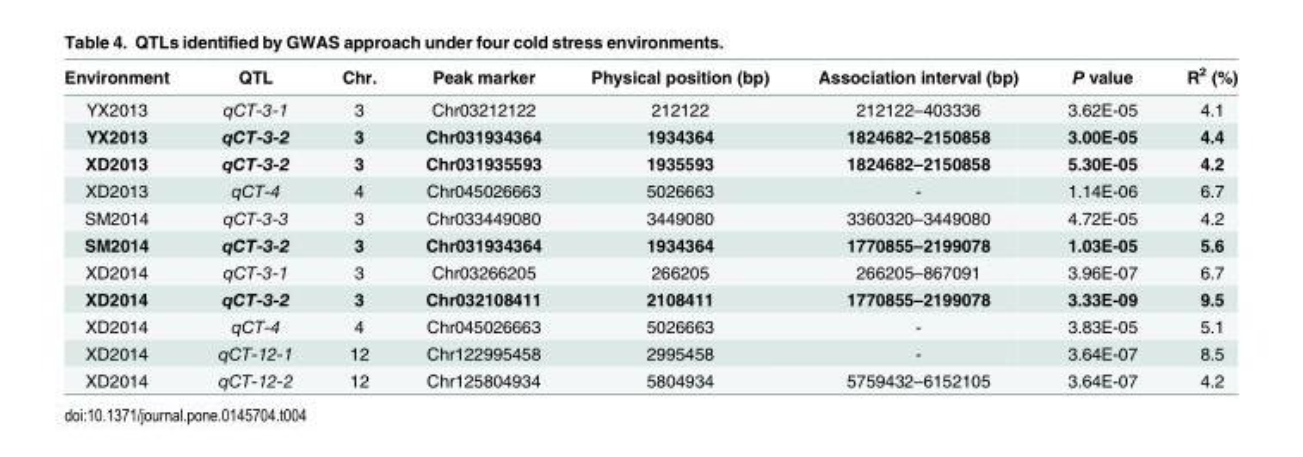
<table><thead><tr><td>Environment</td><td>QTL</td><td>Chr.</td><td>Peak marker</td><td>Physical position (bp)</td><td>Association interval (bp)</td><td>P value</td><td>R<sup>2</sup> (%)</td></tr></thead><tbody><tr><td>YX2013</td><td>qCT-3-1</td><td>3</td><td>Chr03212122</td><td>212122</td><td>212122–403336</td><td>3.62E-05</td><td>4.1</td></tr><tr><td>YX2013</td><td>qCT-3-2</td><td>3</td><td>Chr031934364</td><td>1934364</td><td>1824682–2150858</td><td>3.00E-05</td><td>4.4</td></tr><tr><td>XD2013</td><td>qCT-3-2</td><td>3</td><td>Chr031935593</td><td>1935593</td><td>1824682–2150858</td><td>5.30E-05</td><td>4.2</td></tr><tr><td>XD2013</td><td>qCT-4</td><td>4</td><td>Chr045026663</td><td>5026663</td><td>-</td><td>1.14E-06</td><td>6.7</td></tr><tr><td>SM2014</td><td>qCT-3-3</td><td>3</td><td>Chr033449080</td><td>3449080</td><td>3360320–3449080</td><td>4.72E-05</td><td>4.2</td></tr><tr><td>SM2014</td><td>qCT-3-2</td><td>3</td><td>Chr031934364</td><td>1934364</td><td>1770855–2199078</td><td>1.03E-05</td><td>5.6</td></tr><tr><td>XD2014</td><td>qCT-3-1</td><td>3</td><td>Chr03266205</td><td>266205</td><td>266205–867091</td><td>3.96E-07</td><td>6.7</td></tr><tr><td>XD2014</td><td>qCT-3-2</td><td>3</td><td>Chr032108411</td><td>2108411</td><td>1770855–2199078</td><td>3.33E-09</td><td>9.5</td></tr><tr><td>XD2014</td><td>qCT-4</td><td>4</td><td>Chr045026663</td><td>5026663</td><td>-</td><td>3.83E-05</td><td>5.1</td></tr><tr><td>XD2014</td><td>qCT-12-1</td><td>12</td><td>Chr122995458</td><td>2995458</td><td>-</td><td>3.64E-07</td><td>8.5</td></tr><tr><td>XD2014</td><td>qCT-12-2</td><td>12</td><td>Chr125804934</td><td>5804934</td><td>5759432–6152105</td><td>3.64E-07</td><td>4.2</td></tr></tbody></table>